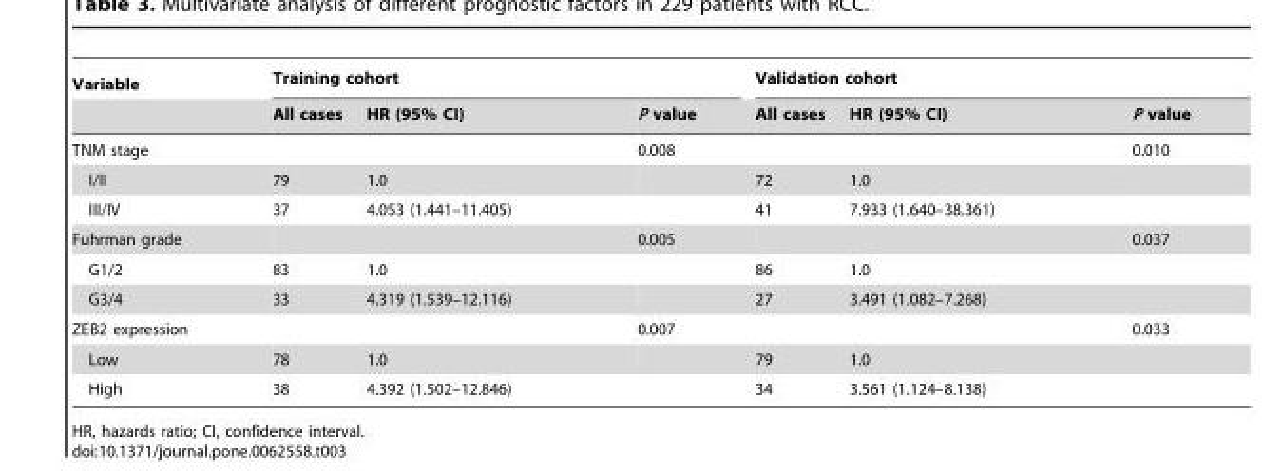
<table><thead><tr><td rowspan="2">Variable</td><td colspan="3">Training cohort</td><td colspan="3">Validation cohort</td></tr><tr><td>All cases</td><td>HR (95% CI)</td><td>P value</td><td>All cases</td><td>HR (95% CI)</td><td>P value</td></tr></thead><tbody><tr><td>TNM stage</td><td></td><td></td><td>0.008</td><td></td><td></td><td>0.010</td></tr><tr><td>I/II</td><td>79</td><td>1.0</td><td></td><td>72</td><td>1.0</td><td></td></tr><tr><td>III/IV</td><td>37</td><td>4.053 (1.441–11.405)</td><td></td><td>41</td><td>7.933 (1.640–38.361)</td><td></td></tr><tr><td>Fuhrman grade</td><td></td><td></td><td>0.005</td><td></td><td></td><td>0.037</td></tr><tr><td>G1/2</td><td>83</td><td>1.0</td><td></td><td>86</td><td>1.0</td><td></td></tr><tr><td>G3/4</td><td>33</td><td>4.319 (1.539–12.116)</td><td></td><td>27</td><td>3.491 (1.082–7.268)</td><td></td></tr><tr><td>ZEB2 expression</td><td></td><td></td><td>0.007</td><td></td><td></td><td>0.033</td></tr><tr><td>Low</td><td>78</td><td>1.0</td><td></td><td>79</td><td>1.0</td><td></td></tr><tr><td>High</td><td>38</td><td>4.392 (1.502–12.846)</td><td></td><td>34</td><td>3.561 (1.124–8.138)</td><td></td></tr></tbody></table>